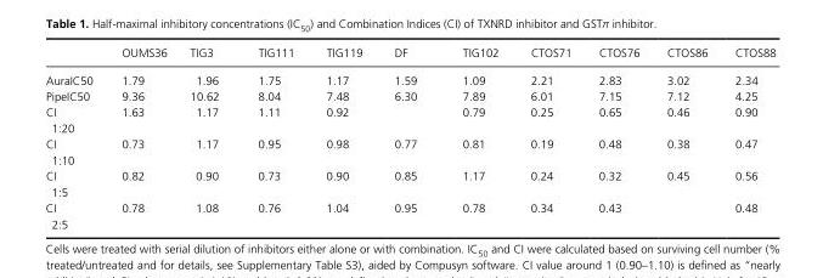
<table><thead><tr><td></td><td>OUMS36</td><td>TIG3</td><td>TIG111</td><td>TIG119</td><td>DF</td><td>TIG102</td><td>CTOS71</td><td>CTOS76</td><td>CTOS86</td><td>CTOS88</td></tr></thead><tbody><tr><td>AuraIC50</td><td>1.79</td><td>1.96</td><td>1.75</td><td>1.17</td><td>1.59</td><td>1.09</td><td>2.21</td><td>2.83</td><td>3.02</td><td>2.34</td></tr><tr><td>PipeIC50</td><td>9.36</td><td>10.62</td><td>8.04</td><td>7.48</td><td>6.30</td><td>7.89</td><td>6.01</td><td>7.15</td><td>7.12</td><td>4.25</td></tr><tr><td>CI 1:20</td><td>1.63</td><td>1.17</td><td>1.11</td><td>0.92</td><td></td><td>0.79</td><td>0.25</td><td>0.65</td><td>0.46</td><td>0.90</td></tr><tr><td>CI 1:10</td><td>0.73</td><td>1.17</td><td>0.95</td><td>0.98</td><td>0.77</td><td>0.81</td><td>0.19</td><td>0.48</td><td>0.38</td><td>0.47</td></tr><tr><td>CI 1:5</td><td>0.82</td><td>0.90</td><td>0.73</td><td>0.90</td><td>0.85</td><td>1.17</td><td>0.24</td><td>0.32</td><td>0.45</td><td>0.56</td></tr><tr><td>CI 2:5</td><td>0.78</td><td>1.08</td><td>0.76</td><td>1.04</td><td>0.95</td><td>0.78</td><td>0.34</td><td>0.43</td><td></td><td>0.48</td></tr></tbody></table>